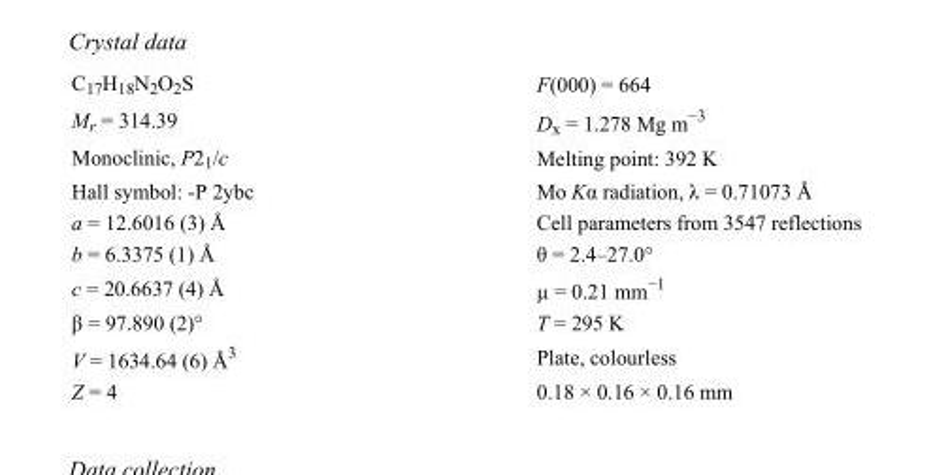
<table><tbody><tr><td>C<sub>17</sub>H<sub>18</sub>N<sub>2</sub>O<sub>2</sub>S</td><td>F(000) = 664</td></tr><tr><td>M<sub>r</sub> = 314.39</td><td>D<sub>x</sub> = 1.278 Mg m<sup>−3</sup></td></tr><tr><td>Monoclinic, P2<sub>1</sub>/c</td><td>Melting point: 392 K</td></tr><tr><td>Hall symbol: -P 2ybc</td><td>Mo Kα radiation, λ = 0.71073 Å</td></tr><tr><td>a = 12.6016 (3) Å</td><td>Cell parameters from 3547 reflections</td></tr><tr><td>b = 6.3375 (1) Å</td><td>θ = 2.4–27.0°</td></tr><tr><td>c = 20.6637 (4) Å</td><td>µ = 0.21 mm<sup>−1</sup></td></tr><tr><td>β = 97.890 (2)°</td><td>T = 295 K</td></tr><tr><td>V = 1634.64 (6) Å<sup>3</sup></td><td>Plate, colourless</td></tr><tr><td>Z = 4</td><td>0.18 × 0.16 × 0.16 mm</td></tr></tbody></table>